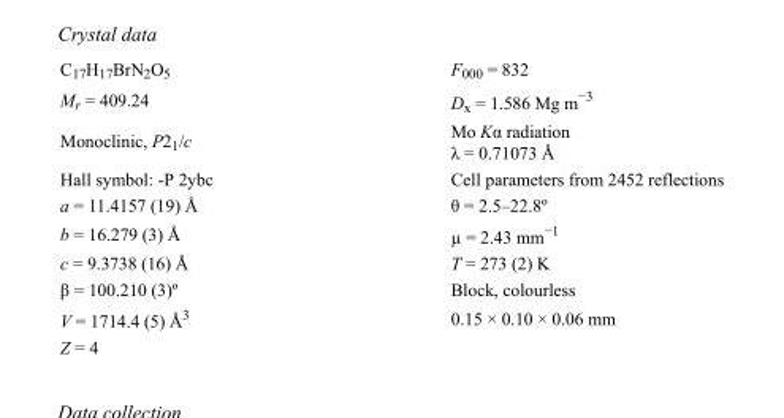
<table><tbody><tr><td>C<sub>17</sub>H<sub>17</sub>BrN<sub>2</sub>O<sub>5</sub></td><td>F<sub>000</sub> = 832</td></tr><tr><td>M<sub>r</sub> = 409.24</td><td>D<sub>x</sub> = 1.586 Mg m<sup>−3</sup></td></tr><tr><td>Monoclinic, P2<sub>1</sub>/c</td><td>Mo Kα radiation λ = 0.71073 Å</td></tr><tr><td>Hall symbol: -P 2ybc</td><td>Cell parameters from 2452 reflections</td></tr><tr><td>a = 11.4157 (19) Å</td><td>θ = 2.5–22.8º</td></tr><tr><td>b = 16.279 (3) Å</td><td>µ = 2.43 mm<sup>−1</sup></td></tr><tr><td>c = 9.3738 (16) Å</td><td>T = 273 (2) K</td></tr><tr><td>β = 100.210 (3)º</td><td>Block, colourless</td></tr><tr><td>V = 1714.4 (5) Å<sup>3</sup></td><td>0.15 × 0.10 × 0.06 mm</td></tr><tr><td>Z = 4</td><td></td></tr></tbody></table>